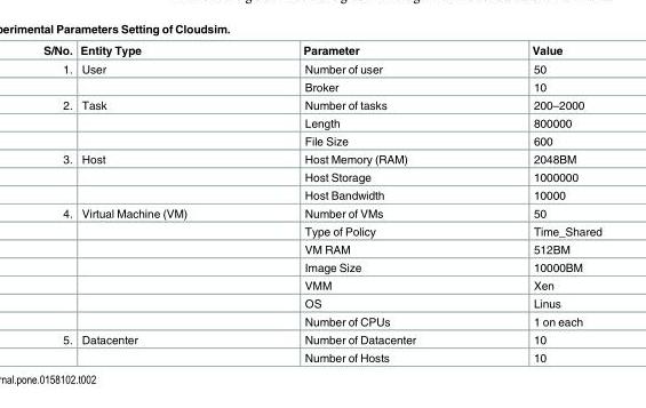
<table><thead><tr><td>S/No.</td><td>Entity Type</td><td>Parameter</td><td>Value</td></tr></thead><tbody><tr><td rowspan="2">1.</td><td>User</td><td>Number of user</td><td>50</td></tr><tr><td></td><td>Broker</td><td>10</td></tr><tr><td rowspan="3">2.</td><td>Task</td><td>Number of tasks</td><td>200–2000</td></tr><tr><td></td><td>Length</td><td>800000</td></tr><tr><td></td><td>File Size</td><td>600</td></tr><tr><td rowspan="3">3.</td><td>Host</td><td>Host Memory (RAM)</td><td>2048BM</td></tr><tr><td></td><td>Host Storage</td><td>1000000</td></tr><tr><td></td><td>Host Bandwidth</td><td>10000</td></tr><tr><td rowspan="7">4.</td><td>Virtual Machine (VM)</td><td>Number of VMs</td><td>50</td></tr><tr><td></td><td>Type of Policy</td><td>Time_Shared</td></tr><tr><td></td><td>VM RAM</td><td>512BM</td></tr><tr><td></td><td>Image Size</td><td>10000BM</td></tr><tr><td></td><td>VMM</td><td>Xen</td></tr><tr><td></td><td>OS</td><td>Linus</td></tr><tr><td></td><td>Number of CPUs</td><td>1 on each</td></tr><tr><td rowspan="2">5.</td><td>Datacenter</td><td>Number of Datacenter</td><td>10</td></tr><tr><td></td><td>Number of Hosts</td><td>10</td></tr></tbody></table>